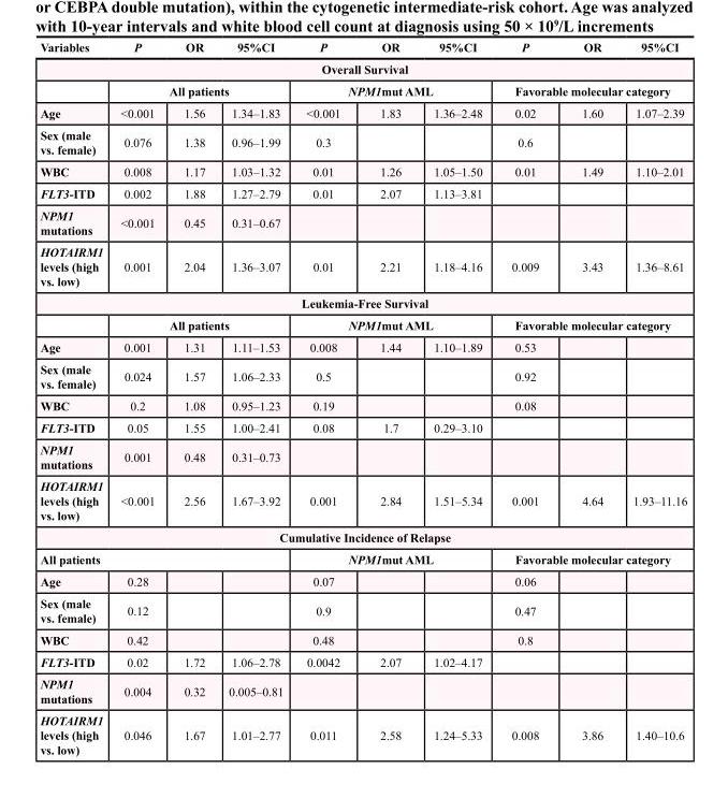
<table><thead><tr><td>Variables</td><td>P</td><td>OR</td><td>95%CI</td><td>P</td><td>OR</td><td>95%CI</td><td>P</td><td>OR</td><td>95%CI</td></tr><tr><td colspan="10">Overall Survival</td></tr><tr><td></td><td colspan="3">All patients</td><td colspan="3">NPM1mut AML</td><td colspan="3">Favorable molecular category</td></tr></thead><tbody><tr><td>Age</td><td>&lt;0.001</td><td>1.56</td><td>1.34–1.83</td><td>&lt;0.001</td><td>1.83</td><td>1.36–2.48</td><td>0.02</td><td>1.60</td><td>1.07–2.39</td></tr><tr><td>Sex (male vs. female)</td><td>0.076</td><td>1.38</td><td>0.96–1.99</td><td>0.3</td><td></td><td></td><td>0.6</td><td></td><td></td></tr><tr><td>WBC</td><td>0.008</td><td>1.17</td><td>1.03–1.32</td><td>0.01</td><td>1.26</td><td>1.05–1.50</td><td>0.01</td><td>1.49</td><td>1.10–2.01</td></tr><tr><td>FLT3-ITD</td><td>0.002</td><td>1.88</td><td>1.27–2.79</td><td>0.01</td><td>2.07</td><td>1.13–3.81</td><td></td><td></td><td></td></tr><tr><td>NPM1 mutations</td><td>&lt;0.001</td><td>0.45</td><td>0.31–0.67</td><td></td><td></td><td></td><td></td><td></td><td></td></tr><tr><td>HOTAIRM1 levels (high vs. low)</td><td>0.001</td><td>2.04</td><td>1.36–3.07</td><td>0.01</td><td>2.21</td><td>1.18–4.16</td><td>0.009</td><td>3.43</td><td>1.36–8.61</td></tr><tr><td colspan="10">Leukemia-Free Survival</td></tr><tr><td></td><td colspan="3">All patients</td><td colspan="3">NPM1mut AML</td><td colspan="3">Favorable molecular category</td></tr><tr><td>Age</td><td>0.001</td><td>1.31</td><td>1.11–1.53</td><td>0.008</td><td>1.44</td><td>1.10–1.89</td><td>0.53</td><td></td><td></td></tr><tr><td>Sex (male vs. female)</td><td>0.024</td><td>1.57</td><td>1.06–2.33</td><td>0.5</td><td></td><td></td><td>0.92</td><td></td><td></td></tr><tr><td>WBC</td><td>0.2</td><td>1.08</td><td>0.95–1.23</td><td>0.19</td><td></td><td></td><td>0.08</td><td></td><td></td></tr><tr><td>FLT3-ITD</td><td>0.05</td><td>1.55</td><td>1.00–2.41</td><td>0.08</td><td>1.7</td><td>0.29–3.10</td><td></td><td></td><td></td></tr><tr><td>NPM1 mutations</td><td>0.001</td><td>0.48</td><td>0.31–0.73</td><td></td><td></td><td></td><td></td><td></td><td></td></tr><tr><td>HOTAIRM1 levels (high vs. low)</td><td>&lt;0.001</td><td>2.56</td><td>1.67–3.92</td><td>0.001</td><td>2.84</td><td>1.51–5.34</td><td>0.001</td><td>4.64</td><td>1.93–11.16</td></tr><tr><td colspan="10">Cumulative Incidence of Relapse</td></tr><tr><td colspan="4">All patients</td><td colspan="3">NPM1mut AML</td><td colspan="3">Favorable molecular category</td></tr><tr><td>Age</td><td>0.28</td><td></td><td></td><td>0.07</td><td></td><td></td><td>0.06</td><td></td><td></td></tr><tr><td>Sex (male vs. female)</td><td>0.12</td><td></td><td></td><td>0.9</td><td></td><td></td><td>0.47</td><td></td><td></td></tr><tr><td>WBC</td><td>0.42</td><td></td><td></td><td>0.48</td><td></td><td></td><td>0.8</td><td></td><td></td></tr><tr><td>FLT3-ITD</td><td>0.02</td><td>1.72</td><td>1.06–2.78</td><td>0.0042</td><td>2.07</td><td>1.02–4.17</td><td></td><td></td><td></td></tr><tr><td>NPM1 mutations</td><td>0.004</td><td>0.32</td><td>0.005–0.81</td><td></td><td></td><td></td><td></td><td></td><td></td></tr><tr><td>HOTAIRM1 levels (high vs. low)</td><td>0.046</td><td>1.67</td><td>1.01–2.77</td><td>0.011</td><td>2.58</td><td>1.24–5.33</td><td>0.008</td><td>3.86</td><td>1.40–10.6</td></tr></tbody></table>